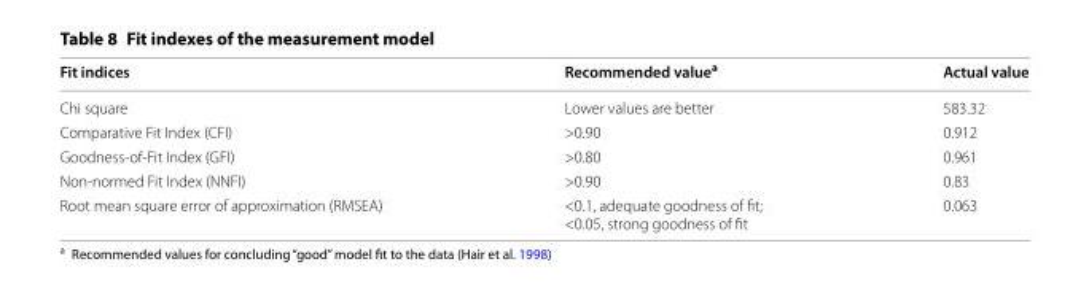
<table><thead><tr><td>Fit indices</td><td>Recommended value<sup>a</sup></td><td>Actual value</td></tr></thead><tbody><tr><td>Chi square</td><td>Lower values are better</td><td>583.32</td></tr><tr><td>Comparative Fit Index (CFI)</td><td>&gt;0.90</td><td>0.912</td></tr><tr><td>Goodness-of-Fit Index (GFI)</td><td>&gt;0.80</td><td>0.961</td></tr><tr><td>Non-normed Fit Index (NNFI)</td><td>&gt;0.90</td><td>0.83</td></tr><tr><td>Root mean square error of approximation (RMSEA)</td><td>&lt;0.1, adequate goodness of fit; &lt;0.05, strong goodness of fit</td><td>0.063</td></tr></tbody></table>